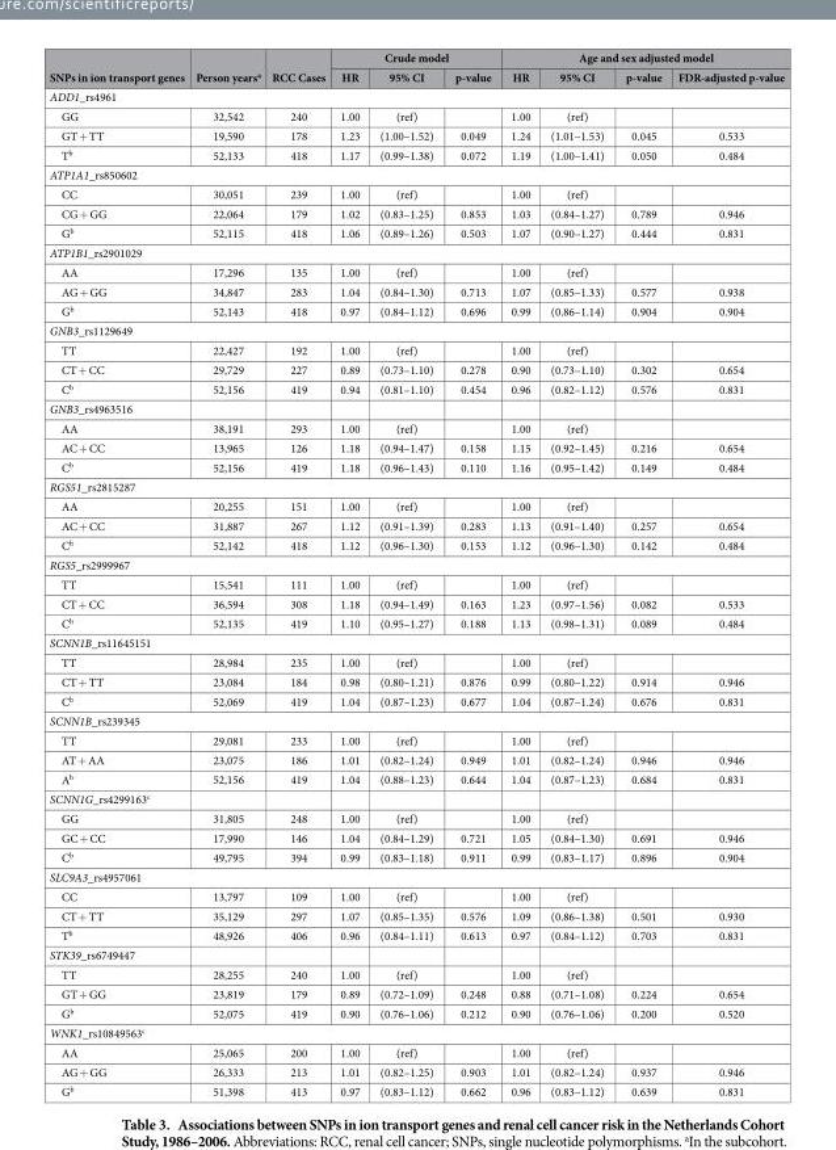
<table><thead><tr><td rowspan="2">SNPs in ion transport genes</td><td rowspan="2">Person years<sup>a</sup></td><td rowspan="2">RCC Cases</td><td colspan="3">Crude model</td><td colspan="4">Age and sex adjusted model</td></tr><tr><td>HR</td><td>95% CI</td><td>p-value</td><td>HR</td><td>95% CI</td><td>p-value</td><td>FDR-adjusted p-value</td></tr></thead><tbody><tr><td colspan="10">ADD1_rs4961</td></tr><tr><td>GG</td><td>32,542</td><td>240</td><td>1.00</td><td>(ref)</td><td></td><td>1.00</td><td>(ref)</td><td></td><td></td></tr><tr><td>GT + TT</td><td>19,590</td><td>178</td><td>1.23</td><td>(1.00–1.52)</td><td>0.049</td><td>1.24</td><td>(1.01–1.53)</td><td>0.045</td><td>0.533</td></tr><tr><td>T<sup>b</sup></td><td>52,133</td><td>418</td><td>1.17</td><td>(0.99–1.38)</td><td>0.072</td><td>1.19</td><td>(1.00–1.41)</td><td>0.050</td><td>0.484</td></tr><tr><td colspan="10">ATP1A1_rs850602</td></tr><tr><td>CC</td><td>30,051</td><td>239</td><td>1.00</td><td>(ref)</td><td></td><td>1.00</td><td>(ref)</td><td></td><td></td></tr><tr><td>CG + GG</td><td>22,064</td><td>179</td><td>1.02</td><td>(0.83–1.25)</td><td>0.853</td><td>1.03</td><td>(0.84–1.27)</td><td>0.789</td><td>0.946</td></tr><tr><td>G<sup>b</sup></td><td>52,115</td><td>418</td><td>1.06</td><td>(0.89–1.26)</td><td>0.503</td><td>1.07</td><td>(0.90–1.27)</td><td>0.444</td><td>0.831</td></tr><tr><td colspan="10">ATP1B1_rs2901029</td></tr><tr><td>AA</td><td>17,296</td><td>135</td><td>1.00</td><td>(ref)</td><td></td><td>1.00</td><td>(ref)</td><td></td><td></td></tr><tr><td>AG + GG</td><td>34,847</td><td>283</td><td>1.04</td><td>(0.84–1.30)</td><td>0.713</td><td>1.07</td><td>(0.85–1.33)</td><td>0.577</td><td>0.938</td></tr><tr><td>G<sup>b</sup></td><td>52,143</td><td>418</td><td>0.97</td><td>(0.84–1.12)</td><td>0.696</td><td>0.99</td><td>(0.86–1.14)</td><td>0.904</td><td>0.904</td></tr><tr><td colspan="10">GNB3_rs1129649</td></tr><tr><td>TT</td><td>22,427</td><td>192</td><td>1.00</td><td>(ref)</td><td></td><td>1.00</td><td>(ref)</td><td></td><td></td></tr><tr><td>CT + CC</td><td>29,729</td><td>227</td><td>0.89</td><td>(0.73–1.10)</td><td>0.278</td><td>0.90</td><td>(0.73–1.10)</td><td>0.302</td><td>0.654</td></tr><tr><td>C<sup>b</sup></td><td>52,156</td><td>419</td><td>0.94</td><td>(0.81–1.10)</td><td>0.454</td><td>0.96</td><td>(0.82–1.12)</td><td>0.576</td><td>0.831</td></tr><tr><td colspan="10">GNB3_rs4963516</td></tr><tr><td>AA</td><td>38,191</td><td>293</td><td>1.00</td><td>(ref)</td><td></td><td>1.00</td><td>(ref)</td><td></td><td></td></tr><tr><td>AC + CC</td><td>13,965</td><td>126</td><td>1.18</td><td>(0.94–1.47)</td><td>0.158</td><td>1.15</td><td>(0.92–1.45)</td><td>0.216</td><td>0.654</td></tr><tr><td>C<sup>b</sup></td><td>52,156</td><td>419</td><td>1.18</td><td>(0.96–1.43)</td><td>0.110</td><td>1.16</td><td>(0.95–1.42)</td><td>0.149</td><td>0.484</td></tr><tr><td colspan="10">RGS51_rs2815287</td></tr><tr><td>AA</td><td>20,255</td><td>151</td><td>1.00</td><td>(ref)</td><td></td><td>1.00</td><td>(ref)</td><td></td><td></td></tr><tr><td>AC + CC</td><td>31,887</td><td>267</td><td>1.12</td><td>(0.91–1.39)</td><td>0.283</td><td>1.13</td><td>(0.91–1.40)</td><td>0.257</td><td>0.654</td></tr><tr><td>C<sup>b</sup></td><td>52,142</td><td>418</td><td>1.12</td><td>(0.96–1.30)</td><td>0.153</td><td>1.12</td><td>(0.96–1.30)</td><td>0.142</td><td>0.484</td></tr><tr><td colspan="10">RGS5_rs2999967</td></tr><tr><td>TT</td><td>15,541</td><td>111</td><td>1.00</td><td>(ref)</td><td></td><td>1.00</td><td>(ref)</td><td></td><td></td></tr><tr><td>CT + CC</td><td>36,594</td><td>308</td><td>1.18</td><td>(0.94–1.49)</td><td>0.163</td><td>1.23</td><td>(0.97–1.56)</td><td>0.082</td><td>0.533</td></tr><tr><td>C<sup>b</sup></td><td>52,135</td><td>419</td><td>1.10</td><td>(0.95–1.27)</td><td>0.188</td><td>1.13</td><td>(0.98–1.31)</td><td>0.089</td><td>0.484</td></tr><tr><td colspan="10">SCNN1B_rs11645151</td></tr><tr><td>TT</td><td>28,984</td><td>235</td><td>1.00</td><td>(ref)</td><td></td><td>1.00</td><td>(ref)</td><td></td><td></td></tr><tr><td>CT + TT</td><td>23,084</td><td>184</td><td>0.98</td><td>(0.80–1.21)</td><td>0.876</td><td>0.99</td><td>(0.80–1.22)</td><td>0.914</td><td>0.946</td></tr><tr><td>C<sup>b</sup></td><td>52,069</td><td>419</td><td>1.04</td><td>(0.87–1.23)</td><td>0.677</td><td>1.04</td><td>(0.87–1.24)</td><td>0.676</td><td>0.831</td></tr><tr><td colspan="10">SCNN1B_rs239345</td></tr><tr><td>TT</td><td>29,081</td><td>233</td><td>1.00</td><td>(ref)</td><td></td><td>1.00</td><td>(ref)</td><td></td><td></td></tr><tr><td>AT + AA</td><td>23,075</td><td>186</td><td>1.01</td><td>(0.82–1.24)</td><td>0.949</td><td>1.01</td><td>(0.82–1.24)</td><td>0.946</td><td>0.946</td></tr><tr><td>A<sup>b</sup></td><td>52,156</td><td>419</td><td>1.04</td><td>(0.88–1.23)</td><td>0.644</td><td>1.04</td><td>(0.87–1.23)</td><td>0.684</td><td>0.831</td></tr><tr><td colspan="10">SCNN1G_rs4299163<sup>c</sup></td></tr><tr><td>GG</td><td>31,805</td><td>248</td><td>1.00</td><td>(ref)</td><td></td><td>1.00</td><td>(ref)</td><td></td><td></td></tr><tr><td>GC + CC</td><td>17,990</td><td>146</td><td>1.04</td><td>(0.84–1.29)</td><td>0.721</td><td>1.05</td><td>(0.84–1.30)</td><td>0.691</td><td>0.946</td></tr><tr><td>C<sup>b</sup></td><td>49,795</td><td>394</td><td>0.99</td><td>(0.83–1.18)</td><td>0.911</td><td>0.99</td><td>(0.83–1.17)</td><td>0.896</td><td>0.904</td></tr><tr><td colspan="10">SLC9A3_rs4957061</td></tr><tr><td>CC</td><td>13,797</td><td>109</td><td>1.00</td><td>(ref)</td><td></td><td>1.00</td><td>(ref)</td><td></td><td></td></tr><tr><td>CT + TT</td><td>35,129</td><td>297</td><td>1.07</td><td>(0.85–1.35)</td><td>0.576</td><td>1.09</td><td>(0.86–1.38)</td><td>0.501</td><td>0.930</td></tr><tr><td>T<sup>b</sup></td><td>48,926</td><td>406</td><td>0.96</td><td>(0.84–1.11)</td><td>0.613</td><td>0.97</td><td>(0.84–1.12)</td><td>0.703</td><td>0.831</td></tr><tr><td colspan="10">STK39_rs6749447</td></tr><tr><td>TT</td><td>28,255</td><td>240</td><td>1.00</td><td>(ref)</td><td></td><td>1.00</td><td>(ref)</td><td></td><td></td></tr><tr><td>GT + GG</td><td>23,819</td><td>179</td><td>0.89</td><td>(0.72–1.09)</td><td>0.248</td><td>0.88</td><td>(0.71–1.08)</td><td>0.224</td><td>0.654</td></tr><tr><td>G<sup>b</sup></td><td>52,075</td><td>419</td><td>0.90</td><td>(0.76–1.06)</td><td>0.212</td><td>0.90</td><td>(0.76–1.06)</td><td>0.200</td><td>0.520</td></tr><tr><td colspan="10">WNK1_rs10849563<sup>c</sup></td></tr><tr><td>AA</td><td>25,065</td><td>200</td><td>1.00</td><td>(ref)</td><td></td><td>1.00</td><td>(ref)</td><td></td><td></td></tr><tr><td>AG + GG</td><td>26,333</td><td>213</td><td>1.01</td><td>(0.82–1.25)</td><td>0.903</td><td>1.01</td><td>(0.82–1.24)</td><td>0.937</td><td>0.946</td></tr><tr><td>G<sup>b</sup></td><td>51,398</td><td>413</td><td>0.97</td><td>(0.83–1.12)</td><td>0.662</td><td>0.96</td><td>(0.83–1.12)</td><td>0.639</td><td>0.831</td></tr></tbody></table>